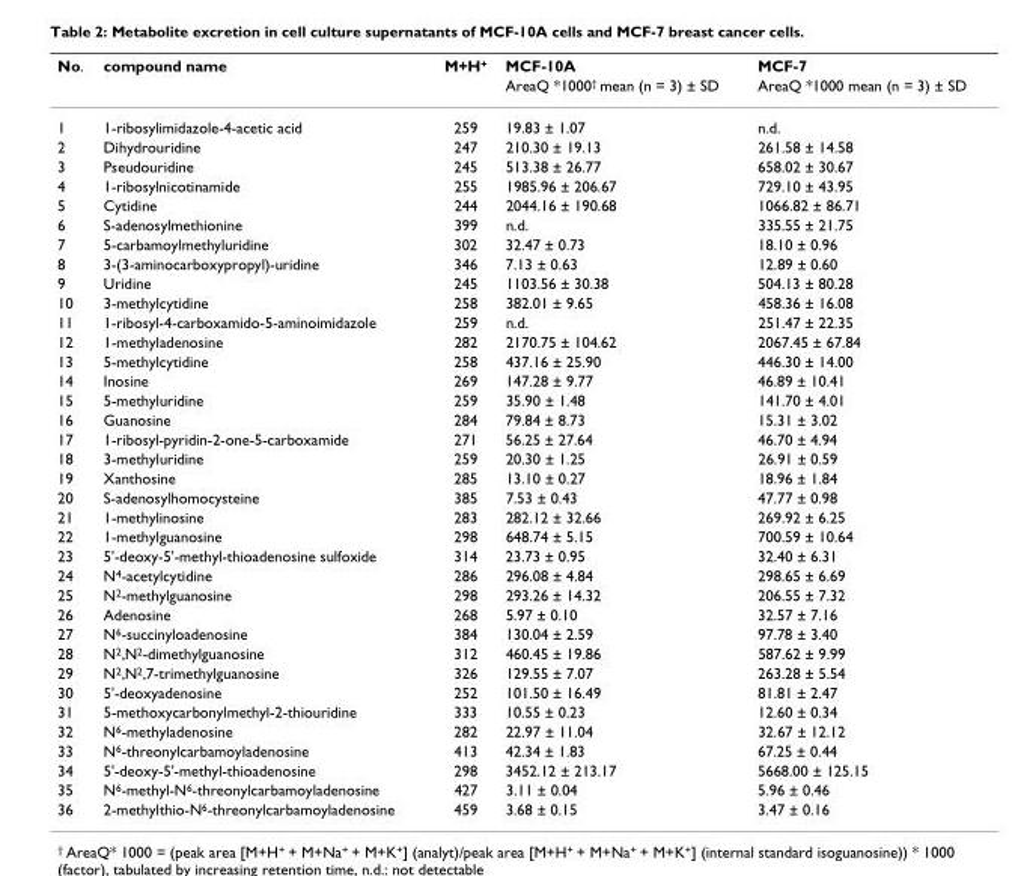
<table><thead><tr><td rowspan="2">No.</td><td rowspan="2">compound name</td><td rowspan="2">M+H<sup>+</sup></td><td rowspan="2">MCF-10A AreaQ *1000<sup>†</sup> mean (n = 3) ± SD</td><td rowspan="2">MCF-7 AreaQ *1000 mean (n = 3) ± SD</td></tr><tr></tr></thead><tbody><tr><td>1</td><td>1-ribosylimidazole-4-acetic acid</td><td>259</td><td>19.83 ± 1.07</td><td>n.d.</td></tr><tr><td>2</td><td>Dihydrouridine</td><td>247</td><td>210.30 ± 19.13</td><td>261.58 ± 14.58</td></tr><tr><td>3</td><td>Pseudouridine</td><td>245</td><td>513.38 ± 26.77</td><td>658.02 ± 30.67</td></tr><tr><td>4</td><td>1-ribosylnicotinamide</td><td>255</td><td>1985.96 ± 206.67</td><td>729.10 ± 43.95</td></tr><tr><td>5</td><td>Cytidine</td><td>244</td><td>2044.16 ± 190.68</td><td>1066.82 ± 86.71</td></tr><tr><td>6</td><td>S-adenosylmethionine</td><td>399</td><td>n.d.</td><td>335.55 ± 21.75</td></tr><tr><td>7</td><td>5-carbamoylmethyluridine</td><td>302</td><td>32.47 ± 0.73</td><td>18.10 ± 0.96</td></tr><tr><td>8</td><td>3-(3-aminocarboxypropyl)-uridine</td><td>346</td><td>7.13 ± 0.63</td><td>12.89 ± 0.60</td></tr><tr><td>9</td><td>Uridine</td><td>245</td><td>1103.56 ± 30.38</td><td>504.13 ± 80.28</td></tr><tr><td>10</td><td>3-methylcytidine</td><td>258</td><td>382.01 ± 9.65</td><td>458.36 ± 16.08</td></tr><tr><td>11</td><td>1-ribosyl-4-carboxamido-5-aminoimidazole</td><td>259</td><td>n.d.</td><td>251.47 ± 22.35</td></tr><tr><td>12</td><td>1-methyladenosine</td><td>282</td><td>2170.75 ± 104.62</td><td>2067.45 ± 67.84</td></tr><tr><td>13</td><td>5-methylcytidine</td><td>258</td><td>437.16 ± 25.90</td><td>446.30 ± 14.00</td></tr><tr><td>14</td><td>Inosine</td><td>269</td><td>147.28 ± 9.77</td><td>46.89 ± 10.41</td></tr><tr><td>15</td><td>5-methyluridine</td><td>259</td><td>35.90 ± 1.48</td><td>141.70 ± 4.01</td></tr><tr><td>16</td><td>Guanosine</td><td>284</td><td>79.84 ± 8.73</td><td>15.31 ± 3.02</td></tr><tr><td>17</td><td>1-ribosyl-pyridin-2-one-5-carboxamide</td><td>271</td><td>56.25 ± 27.64</td><td>46.70 ± 4.94</td></tr><tr><td>18</td><td>3-methyluridine</td><td>259</td><td>20.30 ± 1.25</td><td>26.91 ± 0.59</td></tr><tr><td>19</td><td>Xanthosine</td><td>285</td><td>13.10 ± 0.27</td><td>18.96 ± 1.84</td></tr><tr><td>20</td><td>S-adenosylhomocysteine</td><td>385</td><td>7.53 ± 0.43</td><td>47.77 ± 0.98</td></tr><tr><td>21</td><td>1-methylinosine</td><td>283</td><td>282.12 ± 32.66</td><td>269.92 ± 6.25</td></tr><tr><td>22</td><td>1-methylguanosine</td><td>298</td><td>648.74 ± 5.15</td><td>700.59 ± 10.64</td></tr><tr><td>23</td><td>5&#x27;-deoxy-5&#x27;-methyl-thioadenosine sulfoxide</td><td>314</td><td>23.73 ± 0.95</td><td>32.40 ± 6.31</td></tr><tr><td>24</td><td>N<sup>4</sup>-acetylcytidine</td><td>286</td><td>296.08 ± 4.84</td><td>298.65 ± 6.69</td></tr><tr><td>25</td><td>N<sup>2</sup>-methylguanosine</td><td>298</td><td>293.26 ± 14.32</td><td>206.55 ± 7.32</td></tr><tr><td>26</td><td>Adenosine</td><td>268</td><td>5.97 ± 0.10</td><td>32.57 ± 7.16</td></tr><tr><td>27</td><td>N<sup>6</sup>-succinyloadenosine</td><td>384</td><td>130.04 ± 2.59</td><td>97.78 ± 3.40</td></tr><tr><td>28</td><td>N<sup>2</sup>,N<sup>2</sup>-dimethylguanosine</td><td>312</td><td>460.45 ± 19.86</td><td>587.62 ± 9.99</td></tr><tr><td>29</td><td>N<sup>2</sup>,N<sup>2</sup>,7-trimethylguanosine</td><td>326</td><td>129.55 ± 7.07</td><td>263.28 ± 5.54</td></tr><tr><td>30</td><td>5&#x27;-deoxyadenosine</td><td>252</td><td>101.50 ± 16.49</td><td>81.81 ± 2.47</td></tr><tr><td>31</td><td>5-methoxycarbonylmethyl-2-thiouridine</td><td>333</td><td>10.55 ± 0.23</td><td>12.60 ± 0.34</td></tr><tr><td>32</td><td>N<sup>6</sup>-methyladenosine</td><td>282</td><td>22.97 ± 11.04</td><td>32.67 ± 12.12</td></tr><tr><td>33</td><td>N<sup>6</sup>-threonylcarbamoyladenosine</td><td>413</td><td>42.34 ± 1.83</td><td>67.25 ± 0.44</td></tr><tr><td>34</td><td>5&#x27;-deoxy-5&#x27;-methyl-thioadenosine</td><td>298</td><td>3452.12 ± 213.17</td><td>5668.00 ± 125.15</td></tr><tr><td>35</td><td>N<sup>6</sup>-methyl-N<sup>6</sup>-threonylcarbamoyladenosine</td><td>427</td><td>3.11 ± 0.04</td><td>5.96 ± 0.46</td></tr><tr><td>36</td><td>2-methylthio-N<sup>6</sup>-threonylcarbamoyladenosine</td><td>459</td><td>3.68 ± 0.15</td><td>3.47 ± 0.16</td></tr></tbody></table>